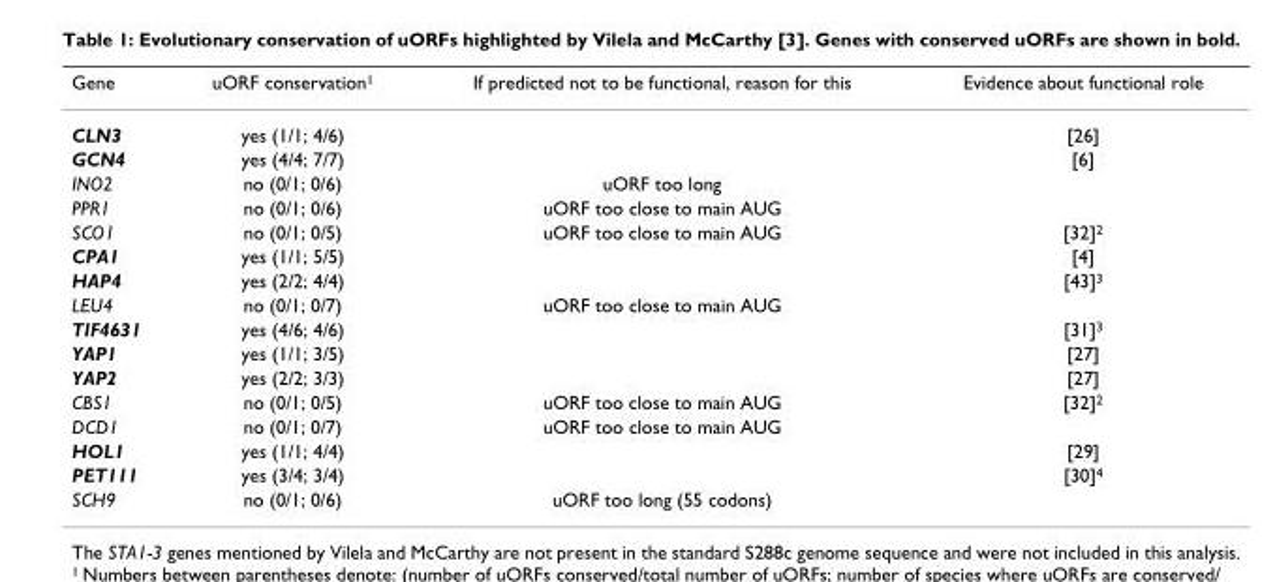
<table><thead><tr><td>Gene</td><td>uORF conservation<sup>1</sup></td><td>If predicted not to be functional, reason for this</td><td>Evidence about functional role</td></tr></thead><tbody><tr><td>CLN3</td><td>yes (1/1; 4/6)</td><td></td><td>[26]</td></tr><tr><td>GCN4</td><td>yes (4/4; 7/7)</td><td></td><td>[6]</td></tr><tr><td>INO2</td><td>no (0/1; 0/6)</td><td>uORF too long</td><td></td></tr><tr><td>PPR1</td><td>no (0/1; 0/6)</td><td>uORF too close to main AUG</td><td></td></tr><tr><td>SCO1</td><td>no (0/1; 0/5)</td><td>uORF too close to main AUG</td><td>[32]<sup>2</sup></td></tr><tr><td>CPA1</td><td>yes (1/1; 5/5)</td><td></td><td>[4]</td></tr><tr><td>HAP4</td><td>yes (2/2; 4/4)</td><td></td><td>[43]<sup>3</sup></td></tr><tr><td>LEU4</td><td>no (0/1; 0/7)</td><td>uORF too close to main AUG</td><td></td></tr><tr><td>TIF4631</td><td>yes (4/6; 4/6)</td><td></td><td>[31]<sup>3</sup></td></tr><tr><td>YAP1</td><td>yes (1/1; 3/5)</td><td></td><td>[27]</td></tr><tr><td>YAP2</td><td>yes (2/2; 3/3)</td><td></td><td>[27]</td></tr><tr><td>CBS1</td><td>no (0/1; 0/5)</td><td>uORF too close to main AUG</td><td>[32]<sup>2</sup></td></tr><tr><td>DCD1</td><td>no (0/1; 0/7)</td><td>uORF too close to main AUG</td><td></td></tr><tr><td>HOL1</td><td>yes (1/1; 4/4)</td><td></td><td>[29]</td></tr><tr><td>PET111</td><td>yes (3/4; 3/4)</td><td></td><td>[30]<sup>4</sup></td></tr><tr><td>SCH9</td><td>no (0/1; 0/6)</td><td>uORF too long (55 codons)</td><td></td></tr></tbody></table>